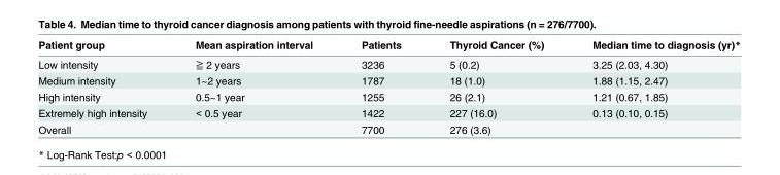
<table><thead><tr><td>Patient group</td><td>Mean aspiration interval</td><td>Patients</td><td>Thyroid Cancer (%)</td><td>Median time to diagnosis (yr)*</td></tr></thead><tbody><tr><td>Low intensity</td><td>≧ 2 years</td><td>3236</td><td>5 (0.2)</td><td>3.25 (2.03, 4.30)</td></tr><tr><td>Medium intensity</td><td>1~2 years</td><td>1787</td><td>18 (1.0)</td><td>1.88 (1.15, 2.47)</td></tr><tr><td>High intensity</td><td>0.5~1 year</td><td>1255</td><td>26 (2.1)</td><td>1.21 (0.67, 1.85)</td></tr><tr><td>Extremely high intensity</td><td>&lt; 0.5 year</td><td>1422</td><td>227 (16.0)</td><td>0.13 (0.10, 0.15)</td></tr><tr><td>Overall</td><td></td><td>7700</td><td>276 (3.6)</td><td></td></tr></tbody></table>